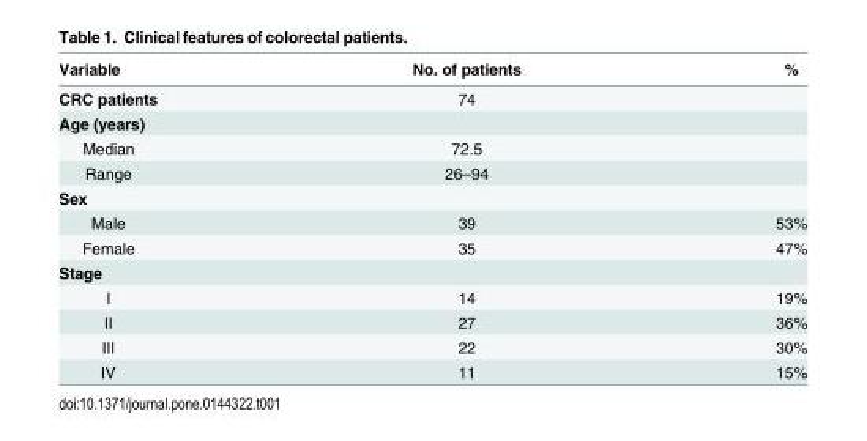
<table><thead><tr><td>Variable</td><td>No. of patients</td><td>%</td></tr></thead><tbody><tr><td>CRC patients</td><td>74</td><td></td></tr><tr><td colspan="3">Age (years)</td></tr><tr><td>Median</td><td>72.5</td><td></td></tr><tr><td>Range</td><td>26–94</td><td></td></tr><tr><td colspan="3">Sex</td></tr><tr><td>Male</td><td>39</td><td>53%</td></tr><tr><td>Female</td><td>35</td><td>47%</td></tr><tr><td colspan="3">Stage</td></tr><tr><td>I</td><td>14</td><td>19%</td></tr><tr><td>II</td><td>27</td><td>36%</td></tr><tr><td>III</td><td>22</td><td>30%</td></tr><tr><td>IV</td><td>11</td><td>15%</td></tr></tbody></table>